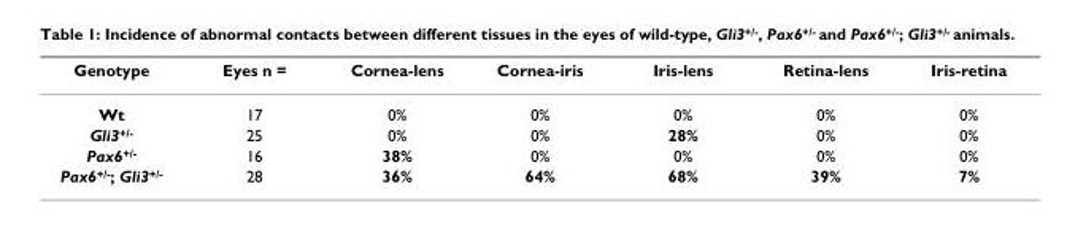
<table><thead><tr><td>Genotype</td><td>Eyes n =</td><td>Cornea-lens</td><td>Cornea-iris</td><td>Iris-lens</td><td>Retina-lens</td><td>Iris-retina</td></tr></thead><tbody><tr><td>Wt</td><td>17</td><td>0%</td><td>0%</td><td>0%</td><td>0%</td><td>0%</td></tr><tr><td>Gli3+/-</td><td>25</td><td>0%</td><td>0%</td><td>28%</td><td>0%</td><td>0%</td></tr><tr><td>Pax6+/-</td><td>16</td><td>38%</td><td>0%</td><td>0%</td><td>0%</td><td>0%</td></tr><tr><td>Pax6+/-; Gli3+/-</td><td>28</td><td>36%</td><td>64%</td><td>68%</td><td>39%</td><td>7%</td></tr></tbody></table>